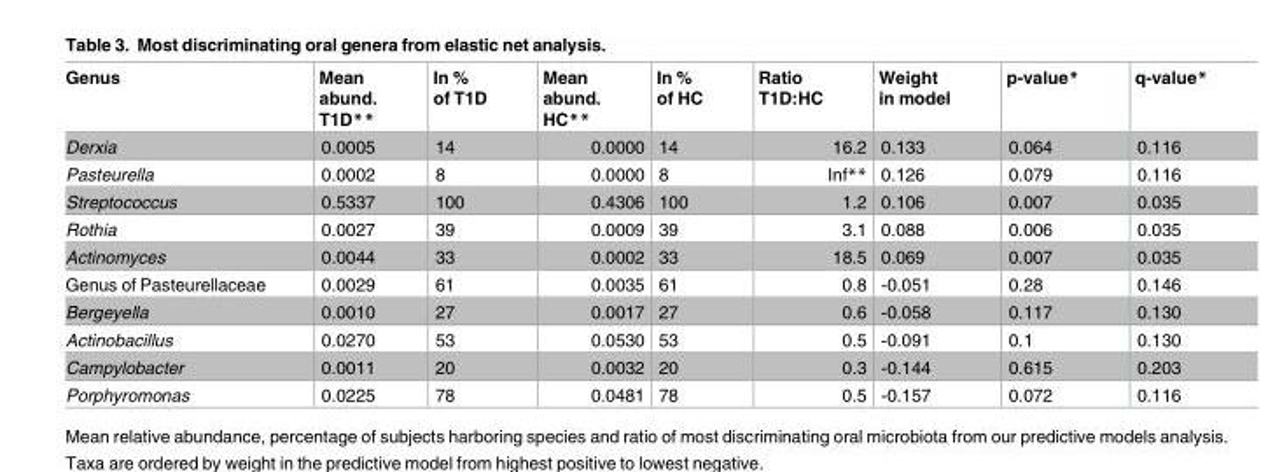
<table><thead><tr><td>Genus</td><td>Mean abund. T1D**</td><td>In % of T1D</td><td>Mean abund. HC**</td><td>In % of HC</td><td>Ratio T1D:HC</td><td>Weight in model</td><td>p-value*</td><td>q-value*</td></tr></thead><tbody><tr><td>Derxia</td><td>0.0005</td><td>14</td><td>0.0000</td><td>14</td><td>16.2</td><td>0.133</td><td>0.064</td><td>0.116</td></tr><tr><td>Pasteurella</td><td>0.0002</td><td>8</td><td>0.0000</td><td>8</td><td>Inf**</td><td>0.126</td><td>0.079</td><td>0.116</td></tr><tr><td>Streptococcus</td><td>0.5337</td><td>100</td><td>0.4306</td><td>100</td><td>1.2</td><td>0.106</td><td>0.007</td><td>0.035</td></tr><tr><td>Rothia</td><td>0.0027</td><td>39</td><td>0.0009</td><td>39</td><td>3.1</td><td>0.088</td><td>0.006</td><td>0.035</td></tr><tr><td>Actinomyces</td><td>0.0044</td><td>33</td><td>0.0002</td><td>33</td><td>18.5</td><td>0.069</td><td>0.007</td><td>0.035</td></tr><tr><td>Genus of Pasteurellaceae</td><td>0.0029</td><td>61</td><td>0.0035</td><td>61</td><td>0.8</td><td>-0.051</td><td>0.28</td><td>0.146</td></tr><tr><td>Bergeyella</td><td>0.0010</td><td>27</td><td>0.0017</td><td>27</td><td>0.6</td><td>-0.058</td><td>0.117</td><td>0.130</td></tr><tr><td>Actinobacillus</td><td>0.0270</td><td>53</td><td>0.0530</td><td>53</td><td>0.5</td><td>-0.091</td><td>0.1</td><td>0.130</td></tr><tr><td>Campylobacter</td><td>0.0011</td><td>20</td><td>0.0032</td><td>20</td><td>0.3</td><td>-0.144</td><td>0.615</td><td>0.203</td></tr><tr><td>Porphyromonas</td><td>0.0225</td><td>78</td><td>0.0481</td><td>78</td><td>0.5</td><td>-0.157</td><td>0.072</td><td>0.116</td></tr></tbody></table>